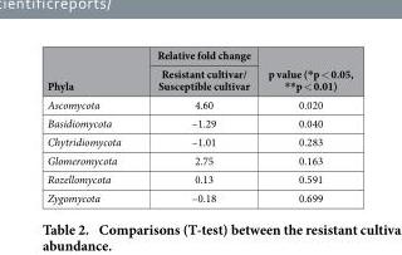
<table><thead><tr><td rowspan="2">Phyla</td><td rowspan="2">Relative fold change Resistant cultivar/ Susceptible cultivar</td><td rowspan="2">p value (*p &lt; 0.05, **p &lt; 0.01)</td></tr><tr></tr></thead><tbody><tr><td>Ascomycota</td><td>4.60</td><td>0.020</td></tr><tr><td>Basidiomycota</td><td>–1.29</td><td>0.040</td></tr><tr><td>Chytridiomycota</td><td>–1.01</td><td>0.283</td></tr><tr><td>Glomeromycota</td><td>2.75</td><td>0.163</td></tr><tr><td>Rozellomycota</td><td>0.13</td><td>0.591</td></tr><tr><td>Zygomycota</td><td>–0.18</td><td>0.699</td></tr></tbody></table>